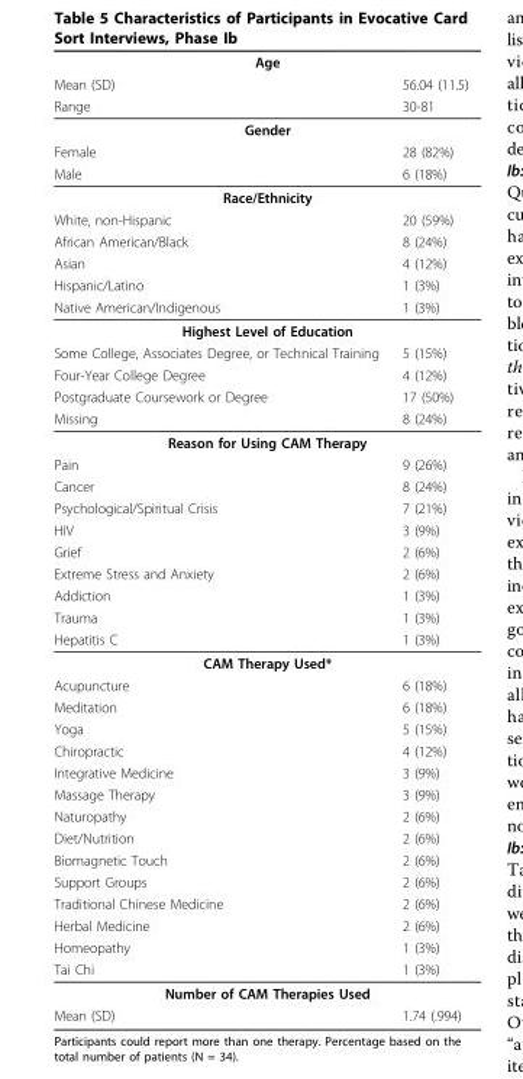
<table><thead><tr><td colspan="2">Age</td></tr><tr><td rowspan="2">Mean (SD) Range</td><td rowspan="2">56.04 (11.5) 30-81</td></tr><tr></tr></thead><tbody><tr><td colspan="2">Gender</td></tr><tr><td>Female</td><td>28 (82%)</td></tr><tr><td>Male</td><td>6 (18%)</td></tr><tr><td colspan="2">Race/Ethnicity</td></tr><tr><td>White, non-Hispanic</td><td>20 (59%)</td></tr><tr><td>African American/Black</td><td>8 (24%)</td></tr><tr><td>Asian</td><td>4 (12%)</td></tr><tr><td>Hispanic/Latino</td><td>1 (3%)</td></tr><tr><td>Native American/Indigenous</td><td>1 (3%)</td></tr><tr><td colspan="2">Highest Level of Education</td></tr><tr><td>Some College, Associates Degree, or Technical Training</td><td>5 (15%)</td></tr><tr><td>Four-Year College Degree</td><td>4 (12%)</td></tr><tr><td>Postgraduate Coursework or Degree</td><td>17 (50%)</td></tr><tr><td>Missing</td><td>8 (24%)</td></tr><tr><td colspan="2">Reason for Using CAM Therapy</td></tr><tr><td>Pain</td><td>9 (26%)</td></tr><tr><td>Cancer</td><td>8 (24%)</td></tr><tr><td>Psychological/Spiritual Crisis</td><td>7 (21%)</td></tr><tr><td>HIV</td><td>3 (9%)</td></tr><tr><td>Grief</td><td>2 (6%)</td></tr><tr><td>Extreme Stress and Anxiety</td><td>2 (6%)</td></tr><tr><td>Addiction</td><td>1 (3%)</td></tr><tr><td>Trauma</td><td>1 (3%)</td></tr><tr><td>Hepatitis C</td><td>1 (3%)</td></tr><tr><td colspan="2">CAM Therapy Used*</td></tr><tr><td>Acupuncture</td><td>6 (18%)</td></tr><tr><td>Meditation</td><td>6 (18%)</td></tr><tr><td>Yoga</td><td>5 (15%)</td></tr><tr><td>Chiropractic</td><td>4 (12%)</td></tr><tr><td>Integrative Medicine</td><td>3 (9%)</td></tr><tr><td>Massage Therapy</td><td>3 (9%)</td></tr><tr><td>Naturopathy</td><td>2 (6%)</td></tr><tr><td>Diet/Nutrition</td><td>2 (6%)</td></tr><tr><td>Biomagnetic Touch</td><td>2 (6%)</td></tr><tr><td>Support Groups</td><td>2 (6%)</td></tr><tr><td>Traditional Chinese Medicine</td><td>2 (6%)</td></tr><tr><td>Herbal Medicine</td><td>2 (6%)</td></tr><tr><td>Homeopathy</td><td>1 (3%)</td></tr><tr><td>Tai Chi</td><td>1 (3%)</td></tr><tr><td colspan="2">Number of CAM Therapies Used</td></tr><tr><td>Mean (SD)</td><td>1.74 (.994)</td></tr></tbody></table>